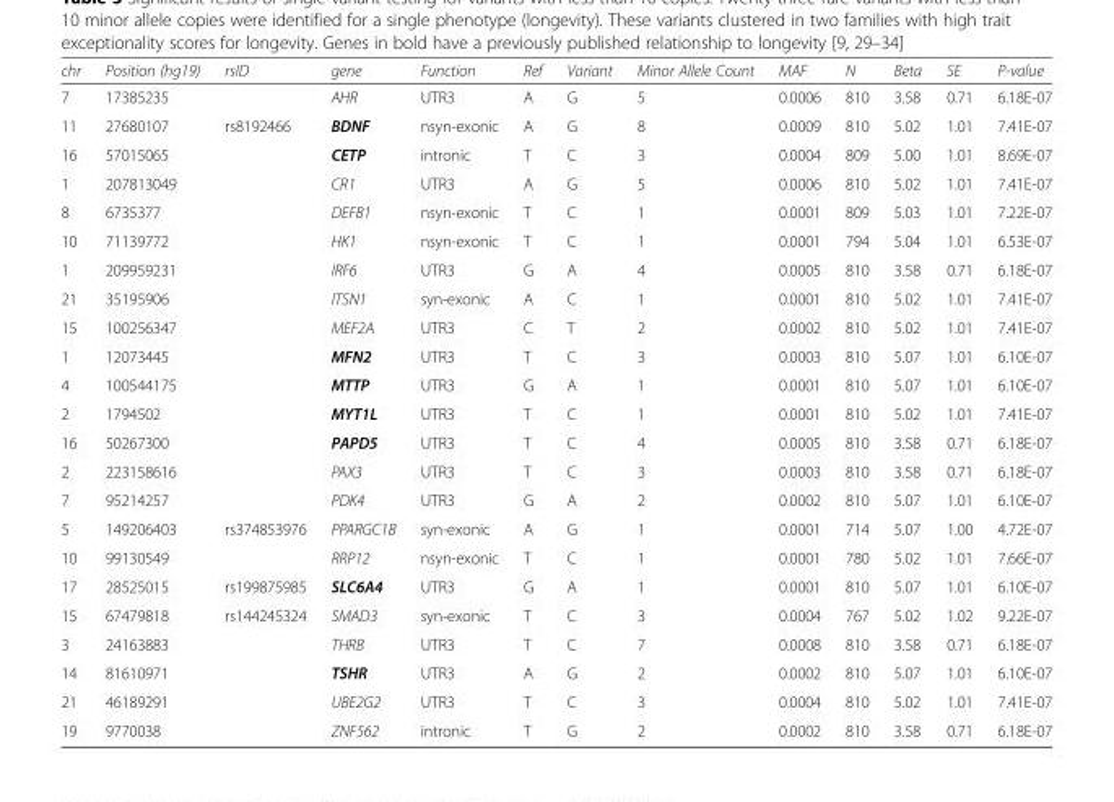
<table><thead><tr><td>chr</td><td>Position (hg19)</td><td>rsID</td><td>gene</td><td>Function</td><td>Ref</td><td>Variant</td><td>Minor Allele Count</td><td>MAF</td><td>N</td><td>Beta</td><td>SE</td><td>P-value</td></tr></thead><tbody><tr><td>7</td><td>17385235</td><td></td><td>AHR</td><td>UTR3</td><td>A</td><td>G</td><td>5</td><td>0.0006</td><td>810</td><td>3.58</td><td>0.71</td><td>6.18E-07</td></tr><tr><td>11</td><td>27680107</td><td>rs8192466</td><td>BDNF</td><td>nsyn-exonic</td><td>A</td><td>G</td><td>8</td><td>0.0009</td><td>810</td><td>5.02</td><td>1.01</td><td>7.41E-07</td></tr><tr><td>16</td><td>57015065</td><td></td><td>CETP</td><td>intronic</td><td>T</td><td>C</td><td>3</td><td>0.0004</td><td>809</td><td>5.00</td><td>1.01</td><td>8.69E-07</td></tr><tr><td>1</td><td>207813049</td><td></td><td>CR1</td><td>UTR3</td><td>A</td><td>G</td><td>5</td><td>0.0006</td><td>810</td><td>5.02</td><td>1.01</td><td>7.41E-07</td></tr><tr><td>8</td><td>6735377</td><td></td><td>DEFB1</td><td>nsyn-exonic</td><td>T</td><td>C</td><td>1</td><td>0.0001</td><td>809</td><td>5.03</td><td>1.01</td><td>7.22E-07</td></tr><tr><td>10</td><td>71139772</td><td></td><td>HK1</td><td>nsyn-exonic</td><td>T</td><td>C</td><td>1</td><td>0.0001</td><td>794</td><td>5.04</td><td>1.01</td><td>6.53E-07</td></tr><tr><td>1</td><td>209959231</td><td></td><td>IRF6</td><td>UTR3</td><td>G</td><td>A</td><td>4</td><td>0.0005</td><td>810</td><td>3.58</td><td>0.71</td><td>6.18E-07</td></tr><tr><td>21</td><td>35195906</td><td></td><td>ITSN1</td><td>syn-exonic</td><td>A</td><td>C</td><td>1</td><td>0.0001</td><td>810</td><td>5.02</td><td>1.01</td><td>7.41E-07</td></tr><tr><td>15</td><td>100256347</td><td></td><td>MEF2A</td><td>UTR3</td><td>C</td><td>T</td><td>2</td><td>0.0002</td><td>810</td><td>5.02</td><td>1.01</td><td>7.41E-07</td></tr><tr><td>1</td><td>12073445</td><td></td><td>MFN2</td><td>UTR3</td><td>T</td><td>C</td><td>3</td><td>0.0003</td><td>810</td><td>5.07</td><td>1.01</td><td>6.10E-07</td></tr><tr><td>4</td><td>100544175</td><td></td><td>MTTP</td><td>UTR3</td><td>G</td><td>A</td><td>1</td><td>0.0001</td><td>810</td><td>5.07</td><td>1.01</td><td>6.10E-07</td></tr><tr><td>2</td><td>1794502</td><td></td><td>MYT1L</td><td>UTR3</td><td>T</td><td>C</td><td>1</td><td>0.0001</td><td>810</td><td>5.02</td><td>1.01</td><td>7.41E-07</td></tr><tr><td>16</td><td>50267300</td><td></td><td>PAPD5</td><td>UTR3</td><td>T</td><td>C</td><td>4</td><td>0.0005</td><td>810</td><td>3.58</td><td>0.71</td><td>6.18E-07</td></tr><tr><td>2</td><td>223158616</td><td></td><td>PAX3</td><td>UTR3</td><td>T</td><td>C</td><td>3</td><td>0.0003</td><td>810</td><td>3.58</td><td>0.71</td><td>6.18E-07</td></tr><tr><td>7</td><td>95214257</td><td></td><td>PDK4</td><td>UTR3</td><td>G</td><td>A</td><td>2</td><td>0.0002</td><td>810</td><td>5.07</td><td>1.01</td><td>6.10E-07</td></tr><tr><td>5</td><td>149206403</td><td>rs374853976</td><td>PPARGC1B</td><td>syn-exonic</td><td>A</td><td>G</td><td>1</td><td>0.0001</td><td>714</td><td>5.07</td><td>1.00</td><td>4.72E-07</td></tr><tr><td>10</td><td>99130549</td><td></td><td>RRP12</td><td>nsyn-exonic</td><td>T</td><td>C</td><td>1</td><td>0.0001</td><td>780</td><td>5.02</td><td>1.01</td><td>7.66E-07</td></tr><tr><td>17</td><td>28525015</td><td>rs199875985</td><td>SLC6A4</td><td>UTR3</td><td>G</td><td>A</td><td>1</td><td>0.0001</td><td>810</td><td>5.07</td><td>1.01</td><td>6.10E-07</td></tr><tr><td>15</td><td>67479818</td><td>rs144245324</td><td>SMAD3</td><td>syn-exonic</td><td>T</td><td>C</td><td>3</td><td>0.0004</td><td>767</td><td>5.02</td><td>1.02</td><td>9.22E-07</td></tr><tr><td>3</td><td>24163883</td><td></td><td>THRB</td><td>UTR3</td><td>T</td><td>C</td><td>7</td><td>0.0008</td><td>810</td><td>3.58</td><td>0.71</td><td>6.18E-07</td></tr><tr><td>14</td><td>81610971</td><td></td><td>TSHR</td><td>UTR3</td><td>A</td><td>G</td><td>2</td><td>0.0002</td><td>810</td><td>5.07</td><td>1.01</td><td>6.10E-07</td></tr><tr><td>21</td><td>46189291</td><td></td><td>UBE2G2</td><td>UTR3</td><td>T</td><td>C</td><td>3</td><td>0.0004</td><td>810</td><td>5.02</td><td>1.01</td><td>7.41E-07</td></tr><tr><td>19</td><td>9770038</td><td></td><td>ZNF562</td><td>intronic</td><td>T</td><td>G</td><td>2</td><td>0.0002</td><td>810</td><td>3.58</td><td>0.71</td><td>6.18E-07</td></tr></tbody></table>